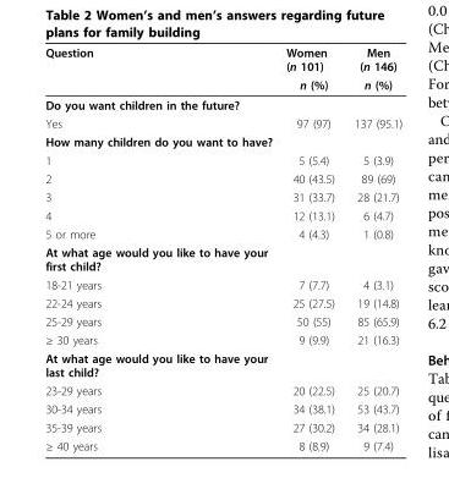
<table><thead><tr><td rowspan="2">Question</td><td rowspan="2">Women (n 101) n (%)</td><td rowspan="2">Men (n 146) n (%)</td></tr><tr></tr></thead><tbody><tr><td colspan="3">Do you want children in the future?</td></tr><tr><td>Yes</td><td>97 (97)</td><td>137 (95.1)</td></tr><tr><td colspan="3">How many children do you want to have?</td></tr><tr><td>1</td><td>5 (5.4)</td><td>5 (3.9)</td></tr><tr><td>2</td><td>40 (43.5)</td><td>89 (69)</td></tr><tr><td>3</td><td>31 (33.7)</td><td>28 (21.7)</td></tr><tr><td>4</td><td>12 (13.1)</td><td>6 (4.7)</td></tr><tr><td>5 or more</td><td>4 (4.3)</td><td>1 (0.8)</td></tr><tr><td colspan="3">At what age would you like to have your first child?</td></tr><tr><td>18-21 years</td><td>7 (7.7)</td><td>4 (3.1)</td></tr><tr><td>22-24 years</td><td>25 (27.5)</td><td>19 (14.8)</td></tr><tr><td>25-29 years</td><td>50 (55)</td><td>85 (65.9)</td></tr><tr><td>≥ 30 years</td><td>9 (9.9)</td><td>21 (16.3)</td></tr><tr><td colspan="3">At what age would you like to have your last child?</td></tr><tr><td>23-29 years</td><td>20 (22.5)</td><td>25 (20.7)</td></tr><tr><td>30-34 years</td><td>34 (38.1)</td><td>53 (43.7)</td></tr><tr><td>35-39 years</td><td>27 (30.2)</td><td>34 (28.1)</td></tr><tr><td>≥ 40 years</td><td>8 (8.9)</td><td>9 (7.4)</td></tr></tbody></table>